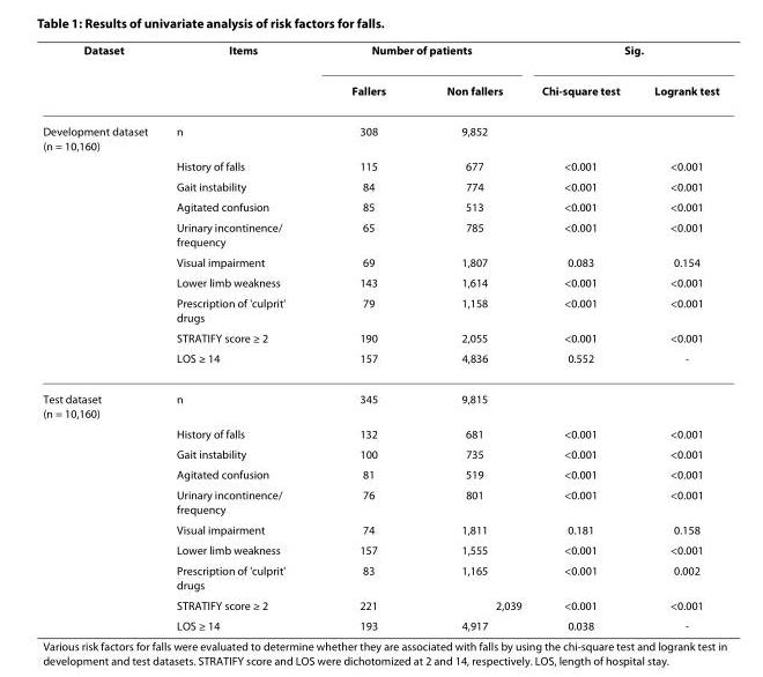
<table><thead><tr><td rowspan="2">Dataset</td><td rowspan="2">Items</td><td colspan="2">Number of patients</td><td colspan="2">Sig.</td></tr><tr><td>Fallers</td><td>Non fallers</td><td>Chi-square test</td><td>Logrank test</td></tr></thead><tbody><tr><td rowspan="10">Development dataset (n = 10,160)</td><td>n</td><td>308</td><td>9,852</td><td></td><td></td></tr><tr><td>History of falls</td><td>115</td><td>677</td><td>&lt;0.001</td><td>&lt;0.001</td></tr><tr><td>Gait instability</td><td>84</td><td>774</td><td>&lt;0.001</td><td>&lt;0.001</td></tr><tr><td>Agitated confusion</td><td>85</td><td>513</td><td>&lt;0.001</td><td>&lt;0.001</td></tr><tr><td>Urinary incontinence/ frequency</td><td>65</td><td>785</td><td>&lt;0.001</td><td>&lt;0.001</td></tr><tr><td>Visual impairment</td><td>69</td><td>1,807</td><td>0.083</td><td>0.154</td></tr><tr><td>Lower limb weakness</td><td>143</td><td>1,614</td><td>&lt;0.001</td><td>&lt;0.001</td></tr><tr><td>Prescription of &#x27;culprit&#x27; drugs</td><td>79</td><td>1,158</td><td>&lt;0.001</td><td>&lt;0.001</td></tr><tr><td>STRATIFY score ≥ 2</td><td>190</td><td>2,055</td><td>&lt;0.001</td><td>&lt;0.001</td></tr><tr><td>LOS ≥ 14</td><td>157</td><td>4,836</td><td>0.552</td><td>-</td></tr><tr><td rowspan="10">Test dataset (n = 10,160)</td><td>n</td><td>345</td><td>9,815</td><td></td><td></td></tr><tr><td>History of falls</td><td>132</td><td>681</td><td>&lt;0.001</td><td>&lt;0.001</td></tr><tr><td>Gait instability</td><td>100</td><td>735</td><td>&lt;0.001</td><td>&lt;0.001</td></tr><tr><td>Agitated confusion</td><td>81</td><td>519</td><td>&lt;0.001</td><td>&lt;0.001</td></tr><tr><td>Urinary incontinence/ frequency</td><td>76</td><td>801</td><td>&lt;0.001</td><td>&lt;0.001</td></tr><tr><td>Visual impairment</td><td>74</td><td>1,811</td><td>0.181</td><td>0.158</td></tr><tr><td>Lower limb weakness</td><td>157</td><td>1,555</td><td>&lt;0.001</td><td>&lt;0.001</td></tr><tr><td>Prescription of &#x27;culprit&#x27; drugs</td><td>83</td><td>1,165</td><td>&lt;0.001</td><td>0.002</td></tr><tr><td>STRATIFY score ≥ 2</td><td>221</td><td>2,039</td><td>&lt;0.001</td><td>&lt;0.001</td></tr><tr><td>LOS ≥ 14</td><td>193</td><td>4,917</td><td>0.038</td><td>-</td></tr></tbody></table>